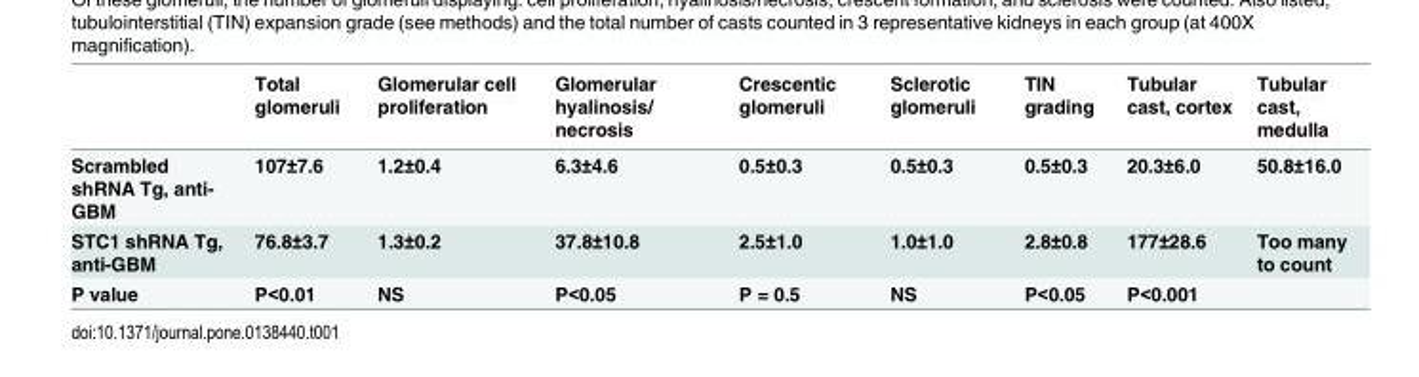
<table><thead><tr><td></td><td>Total glomeruli</td><td>Glomerular cell proliferation</td><td>Glomerular hyalinosis/ necrosis</td><td>Crescentic glomeruli</td><td>Sclerotic glomeruli</td><td>TIN grading</td><td>Tubular cast, cortex</td><td>Tubular cast, medulla</td></tr></thead><tbody><tr><td>Scrambled shRNA Tg, anti- GBM</td><td>107±7.6</td><td>1.2±0.4</td><td>6.3±4.6</td><td>0.5±0.3</td><td>0.5±0.3</td><td>0.5±0.3</td><td>20.3±6.0</td><td>50.8±16.0</td></tr><tr><td>STC1 shRNA Tg, anti-GBM</td><td>76.8±3.7</td><td>1.3±0.2</td><td>37.8±10.8</td><td>2.5±1.0</td><td>1.0±1.0</td><td>2.8±0.8</td><td>177±28.6</td><td>Too many to count</td></tr><tr><td>P value</td><td>P&lt;0.01</td><td>NS</td><td>P&lt;0.05</td><td>P = 0.5</td><td>NS</td><td>P&lt;0.05</td><td>P&lt;0.001</td><td></td></tr></tbody></table>